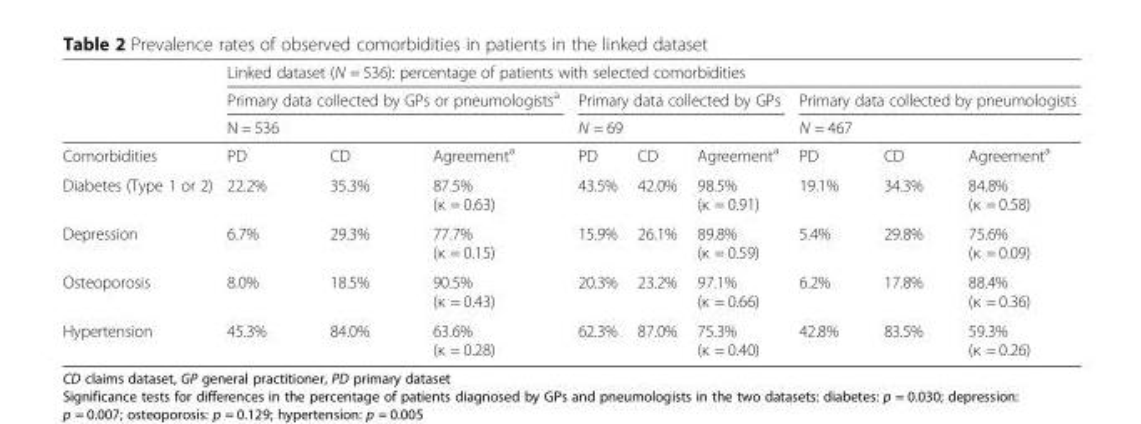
<table><thead><tr><td rowspan="4">Comorbidities</td><td colspan="9">Linked dataset (N = 536): percentage of patients with selected comorbidities</td></tr><tr><td rowspan="2" colspan="3">Primary data collected by GPs or pneumologists<sup>a</sup> N = 536</td><td rowspan="2" colspan="3">Primary data collected by GPs N = 69</td><td rowspan="2" colspan="3">Primary data collected by pneumologists N = 467</td></tr><tr></tr><tr><td>PD</td><td>CD</td><td>Agreement<sup>a</sup></td><td>PD</td><td>CD</td><td>Agreement<sup>a</sup></td><td>PD</td><td>CD</td><td>Agreement<sup>a</sup></td></tr></thead><tbody><tr><td>Diabetes (Type 1 or 2)</td><td>22.2%</td><td>35.3%</td><td>87.5% (κ = 0.63)</td><td>43.5%</td><td>42.0%</td><td>98.5% (κ = 0.91)</td><td>19.1%</td><td>34.3%</td><td>84.8% (κ = 0.58)</td></tr><tr><td>Depression</td><td>6.7%</td><td>29.3%</td><td>77.7% (κ = 0.15)</td><td>15.9%</td><td>26.1%</td><td>89.8% (κ = 0.59)</td><td>5.4%</td><td>29.8%</td><td>75.6% (κ = 0.09)</td></tr><tr><td>Osteoporosis</td><td>8.0%</td><td>18.5%</td><td>90.5% (κ = 0.43)</td><td>20.3%</td><td>23.2%</td><td>97.1% (κ = 0.66)</td><td>6.2%</td><td>17.8%</td><td>88.4% (κ = 0.36)</td></tr><tr><td>Hypertension</td><td>45.3%</td><td>84.0%</td><td>63.6% (κ = 0.28)</td><td>62.3%</td><td>87.0%</td><td>75.3% (κ = 0.40)</td><td>42.8%</td><td>83.5%</td><td>59.3% (κ = 0.26)</td></tr></tbody></table>